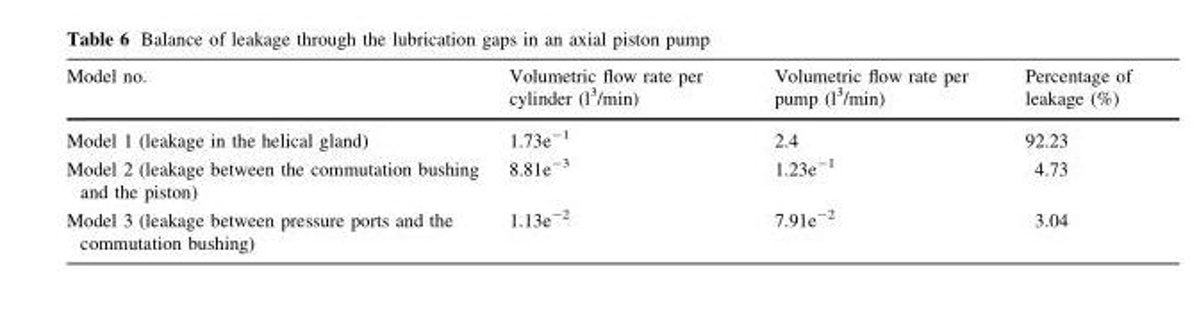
<table><thead><tr><td>Model no.</td><td>Volumetric flow rate per cylinder (l<sup>3</sup>/min)</td><td>Volumetric flow rate per pump (l<sup>3</sup>/min)</td><td>Percentage of leakage (%)</td></tr></thead><tbody><tr><td>Model 1 (leakage in the helical gland)</td><td>1.73e<sup>-1</sup></td><td>2.4</td><td>92.23</td></tr><tr><td>Model 2 (leakage between the commutation bushing and the piston)</td><td>8.81e<sup>-3</sup></td><td>1.23e<sup>-1</sup></td><td>4.73</td></tr><tr><td>Model 3 (leakage between pressure ports and the commutation bushing)</td><td>1.13e<sup>-2</sup></td><td>7.91e<sup>-2</sup></td><td>3.04</td></tr></tbody></table>